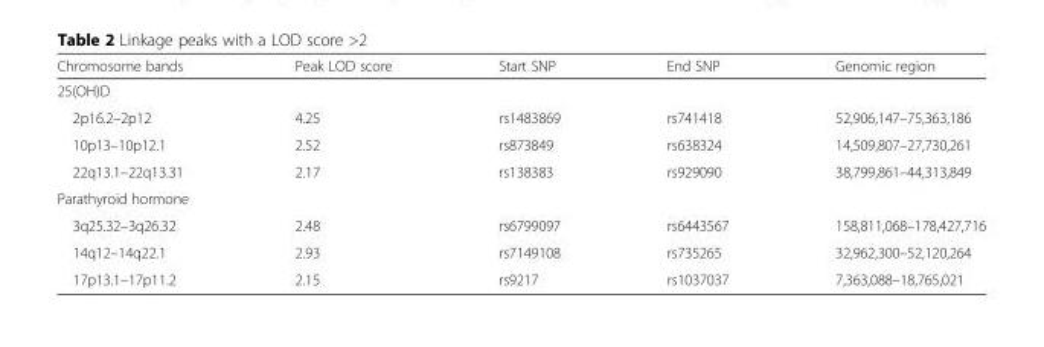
<table><thead><tr><td>Chromosome bands</td><td>Peak LOD score</td><td>Start SNP</td><td>End SNP</td><td>Genomic region</td></tr></thead><tbody><tr><td colspan="5">25(OH)D</td></tr><tr><td>2p16.2–2p12</td><td>4.25</td><td>rs1483869</td><td>rs741418</td><td>52,906,147–75,363,186</td></tr><tr><td>10p13–10p12.1</td><td>2.52</td><td>rs873849</td><td>rs638324</td><td>14,509,807–27,730,261</td></tr><tr><td>22q13.1–22q13.31</td><td>2.17</td><td>rs138383</td><td>rs929090</td><td>38,799,861–44,313,849</td></tr><tr><td colspan="5">Parathyroid hormone</td></tr><tr><td>3q25.32–3q26.32</td><td>2.48</td><td>rs6799097</td><td>rs6443567</td><td>158,811,068–178,427,716</td></tr><tr><td>14q12–14q22.1</td><td>2.93</td><td>rs7149108</td><td>rs735265</td><td>32,962,300–52,120,264</td></tr><tr><td>17p13.1–17p11.2</td><td>2.15</td><td>rs9217</td><td>rs1037037</td><td>7,363,088–18,765,021</td></tr></tbody></table>